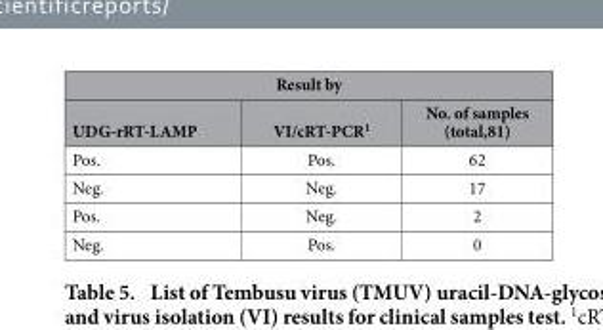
<table><thead><tr><td colspan="3">Result by</td></tr><tr><td>UDG-rRT-LAMP</td><td>VI/cRT-PCR<sup>1</sup></td><td>No. of samples (total,81)</td></tr></thead><tbody><tr><td>Pos.</td><td>Pos.</td><td>62</td></tr><tr><td>Neg.</td><td>Neg.</td><td>17</td></tr><tr><td>Pos.</td><td>Neg.</td><td>2</td></tr><tr><td>Neg.</td><td>Pos.</td><td>0</td></tr></tbody></table>